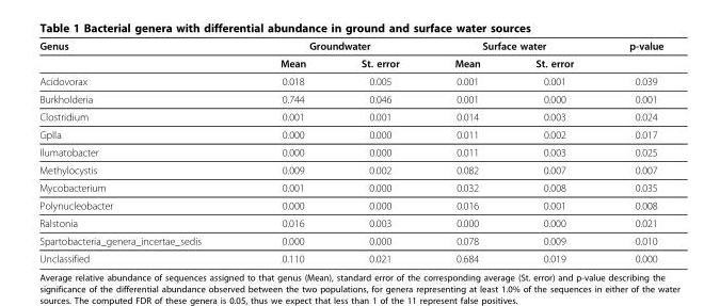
<table><thead><tr><td rowspan="2">Genus</td><td colspan="2">Groundwater</td><td colspan="2">Surface water</td><td rowspan="2">p-value</td></tr><tr><td>Mean</td><td>St. error</td><td>Mean</td><td>St. error</td></tr></thead><tbody><tr><td>Acidovorax</td><td>0.018</td><td>0.005</td><td>0.001</td><td>0.001</td><td>0.039</td></tr><tr><td>Burkholderia</td><td>0.744</td><td>0.046</td><td>0.001</td><td>0.000</td><td>0.001</td></tr><tr><td>Clostridium</td><td>0.001</td><td>0.001</td><td>0.014</td><td>0.003</td><td>0.024</td></tr><tr><td>GpIIa</td><td>0.000</td><td>0.000</td><td>0.011</td><td>0.002</td><td>0.017</td></tr><tr><td>Ilumatobacter</td><td>0.000</td><td>0.000</td><td>0.011</td><td>0.003</td><td>0.025</td></tr><tr><td>Methylocystis</td><td>0.009</td><td>0.002</td><td>0.082</td><td>0.007</td><td>0.007</td></tr><tr><td>Mycobacterium</td><td>0.001</td><td>0.000</td><td>0.032</td><td>0.008</td><td>0.035</td></tr><tr><td>Polynucleobacter</td><td>0.000</td><td>0.000</td><td>0.016</td><td>0.001</td><td>0.008</td></tr><tr><td>Ralstonia</td><td>0.016</td><td>0.003</td><td>0.000</td><td>0.000</td><td>0.021</td></tr><tr><td>Spartobacteria_genera_incertae_sedis</td><td>0.000</td><td>0.000</td><td>0.078</td><td>0.009</td><td>0.010</td></tr><tr><td>Unclassified</td><td>0.110</td><td>0.021</td><td>0.684</td><td>0.019</td><td>0.000</td></tr></tbody></table>